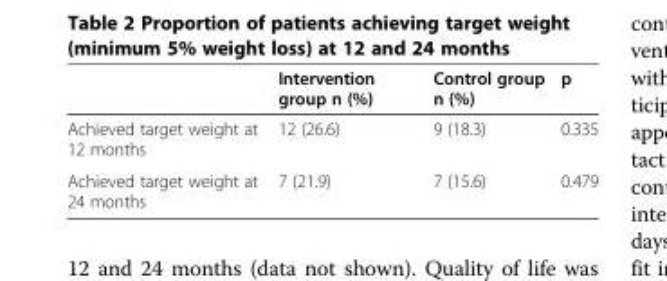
<table><thead><tr><td></td><td>Intervention group n (%)</td><td>Control group n (%)</td><td>p</td></tr></thead><tbody><tr><td>Achieved target weight at 12 months</td><td>12 (26.6)</td><td>9 (18.3)</td><td>0.335</td></tr><tr><td>Achieved target weight at 24 months</td><td>7 (21.9)</td><td>7 (15.6)</td><td>0.479</td></tr></tbody></table>